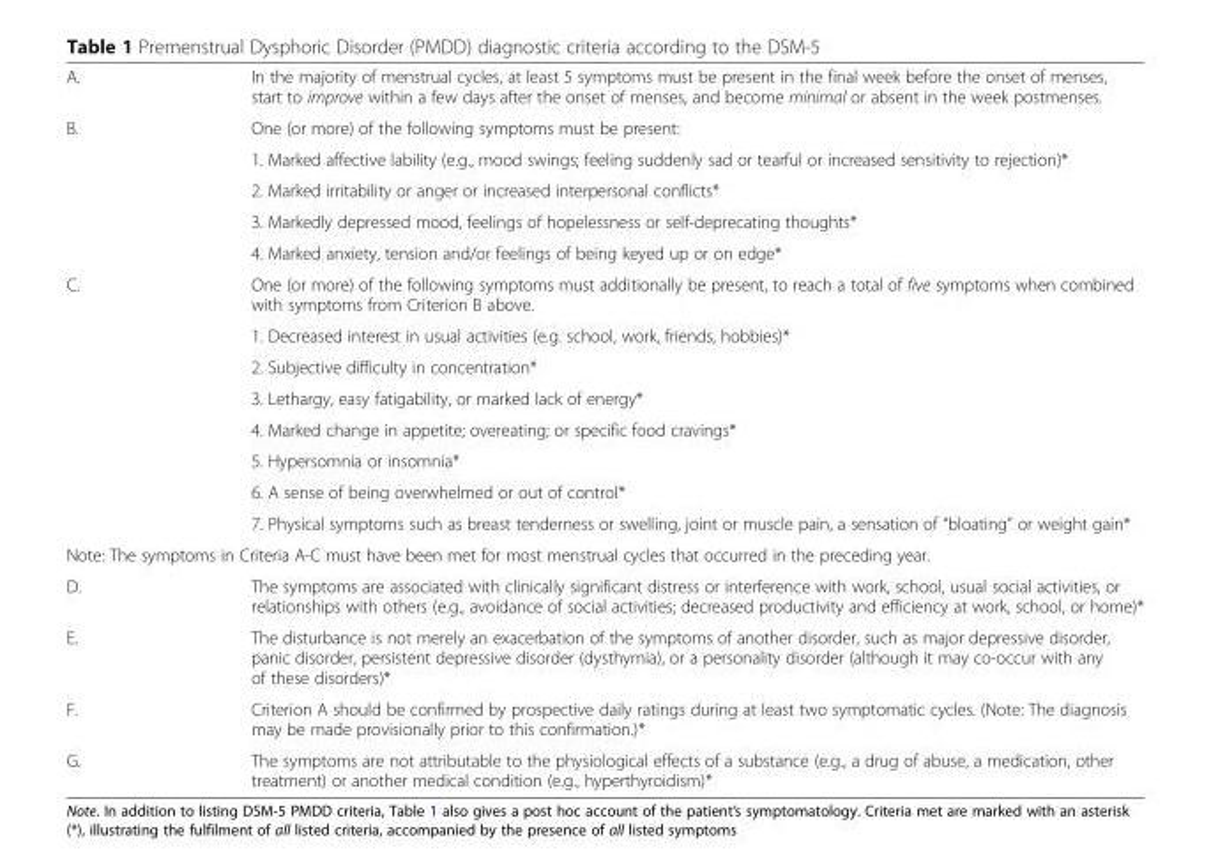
<table><tbody><tr><td>A.</td><td>In the majority of menstrual cycles, at least 5 symptoms must be present in the final week before the onset of menses, start to improve within a few days after the onset of menses, and become minimal or absent in the week postmenses.</td></tr><tr><td rowspan="5">B.</td><td>One (or more) of the following symptoms must be present:</td></tr><tr><td>1. Marked affective lability (e.g., mood swings; feeling suddenly sad or tearful or increased sensitivity to rejection)*</td></tr><tr><td>2. Marked irritability or anger or increased interpersonal conflicts*</td></tr><tr><td>3. Markedly depressed mood, feelings of hopelessness or self-deprecating thoughts*</td></tr><tr><td>4. Marked anxiety, tension and/or feelings of being keyed up or on edge*</td></tr><tr><td rowspan="8">C.</td><td>One (or more) of the following symptoms must additionally be present, to reach a total of five symptoms when combined with symptoms from Criterion B above.</td></tr><tr><td>1. Decreased interest in usual activities (e.g. school, work, friends, hobbies)*</td></tr><tr><td>2. Subjective difficulty in concentration*</td></tr><tr><td>3. Lethargy, easy fatigability, or marked lack of energy*</td></tr><tr><td>4. Marked change in appetite; overeating; or specific food cravings*</td></tr><tr><td>5. Hypersomnia or insomnia*</td></tr><tr><td>6. A sense of being overwhelmed or out of control*</td></tr><tr><td>7. Physical symptoms such as breast tenderness or swelling, joint or muscle pain, a sensation of “bloating” or weight gain*</td></tr><tr><td colspan="2">Note: The symptoms in Criteria A-C must have been met for most menstrual cycles that occurred in the preceding year.</td></tr><tr><td>D.</td><td>The symptoms are associated with clinically significant distress or interference with work, school, usual social activities, or relationships with others (e.g., avoidance of social activities; decreased productivity and efficiency at work, school, or home)*</td></tr><tr><td>E.</td><td>The disturbance is not merely an exacerbation of the symptoms of another disorder, such as major depressive disorder, panic disorder, persistent depressive disorder (dysthymia), or a personality disorder (although it may co-occur with any of these disorders)*</td></tr><tr><td>F.</td><td>Criterion A should be confirmed by prospective daily ratings during at least two symptomatic cycles. (Note: The diagnosis may be made provisionally prior to this confirmation.)*</td></tr><tr><td>G.</td><td>The symptoms are not attributable to the physiological effects of a substance (e.g., a drug of abuse, a medication, other treatment) or another medical condition (e.g., hyperthyroidism)*</td></tr></tbody></table>